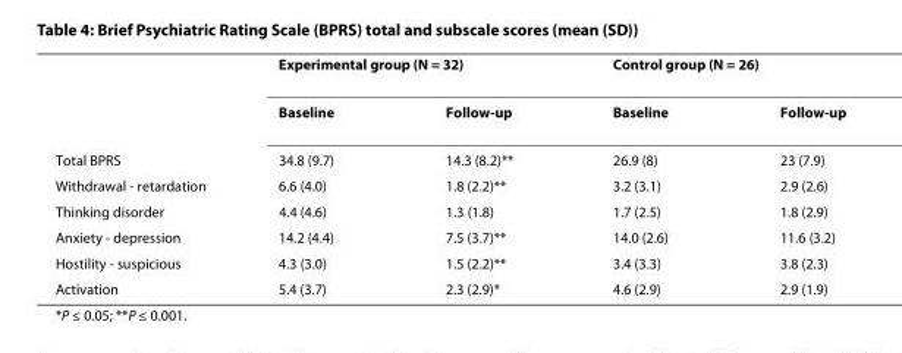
<table><thead><tr><td rowspan="2"></td><td colspan="2">Experimental group (N = 32)</td><td colspan="2">Control group (N = 26)</td></tr><tr><td>Baseline</td><td>Follow-up</td><td>Baseline</td><td>Follow-up</td></tr></thead><tbody><tr><td>Total BPRS</td><td>34.8 (9.7)</td><td>14.3 (8.2)**</td><td>26.9 (8)</td><td>23 (7.9)</td></tr><tr><td>Withdrawal - retardation</td><td>6.6 (4.0)</td><td>1.8 (2.2)**</td><td>3.2 (3.1)</td><td>2.9 (2.6)</td></tr><tr><td>Thinking disorder</td><td>4.4 (4.6)</td><td>1.3 (1.8)</td><td>1.7 (2.5)</td><td>1.8 (2.9)</td></tr><tr><td>Anxiety - depression</td><td>14.2 (4.4)</td><td>7.5 (3.7)**</td><td>14.0 (2.6)</td><td>11.6 (3.2)</td></tr><tr><td>Hostility - suspicious</td><td>4.3 (3.0)</td><td>1.5 (2.2)**</td><td>3.4 (3.3)</td><td>3.8 (2.3)</td></tr><tr><td>Activation</td><td>5.4 (3.7)</td><td>2.3 (2.9)*</td><td>4.6 (2.9)</td><td>2.9 (1.9)</td></tr></tbody></table>